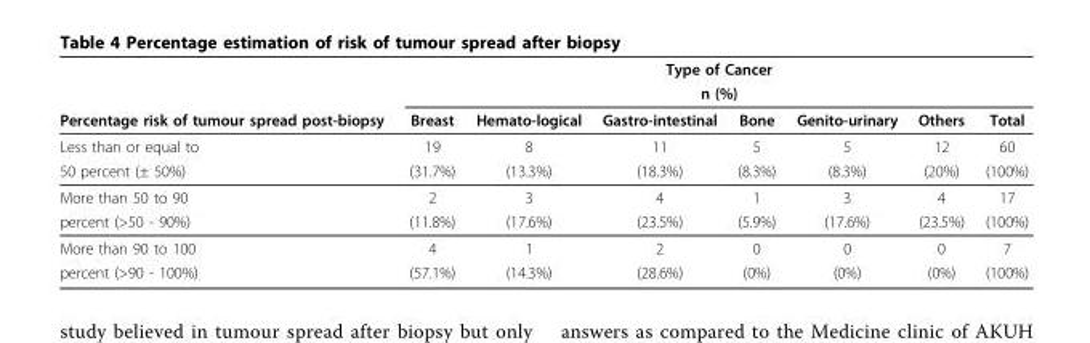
<table><thead><tr><td rowspan="3">Percentage risk of tumour spread post-biopsy</td><td rowspan="2" colspan="7">Type of Cancer n (%)</td></tr><tr></tr><tr><td>Breast</td><td>Hemato-logical</td><td>Gastro-intestinal</td><td>Bone</td><td>Genito-urinary</td><td>Others</td><td>Total</td></tr></thead><tbody><tr><td>Less than or equal to</td><td>19</td><td>8</td><td>11</td><td>5</td><td>5</td><td>12</td><td>60</td></tr><tr><td>50 percent (± 50%)</td><td>(31.7%)</td><td>(13.3%)</td><td>(18.3%)</td><td>(8.3%)</td><td>(8.3%)</td><td>(20%)</td><td>(100%)</td></tr><tr><td>More than 50 to 90</td><td>2</td><td>3</td><td>4</td><td>1</td><td>3</td><td>4</td><td>17</td></tr><tr><td>percent (&gt;50 - 90%)</td><td>(11.8%)</td><td>(17.6%)</td><td>(23.5%)</td><td>(5.9%)</td><td>(17.6%)</td><td>(23.5%)</td><td>(100%)</td></tr><tr><td>More than 90 to 100</td><td>4</td><td>1</td><td>2</td><td>0</td><td>0</td><td>0</td><td>7</td></tr><tr><td>percent (&gt;90 - 100%)</td><td>(57.1%)</td><td>(14.3%)</td><td>(28.6%)</td><td>(0%)</td><td>(0%)</td><td>(0%)</td><td>(100%)</td></tr></tbody></table>